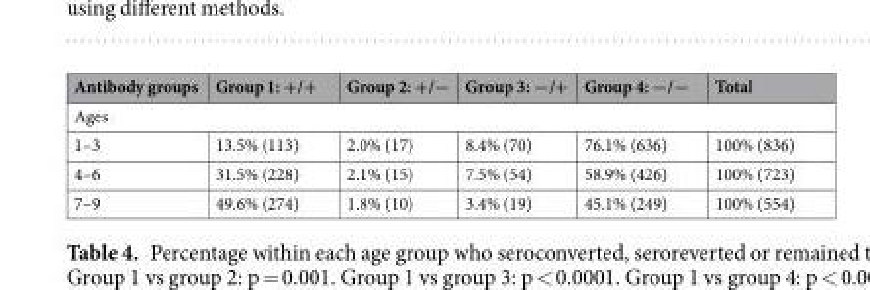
<table><thead><tr><td>Antibody groups</td><td>Group 1: +/+</td><td>Group 2: +/−</td><td>Group 3: −/+</td><td>Group 4: −/−</td><td>Total</td></tr></thead><tbody><tr><td colspan="6">Ages</td></tr><tr><td>1–3</td><td>13.5% (113)</td><td>2.0% (17)</td><td>8.4% (70)</td><td>76.1% (636)</td><td>100% (836)</td></tr><tr><td>4–6</td><td>31.5% (228)</td><td>2.1% (15)</td><td>7.5% (54)</td><td>58.9% (426)</td><td>100% (723)</td></tr><tr><td>7–9</td><td>49.6% (274)</td><td>1.8% (10)</td><td>3.4% (19)</td><td>45.1% (249)</td><td>100% (554)</td></tr></tbody></table>